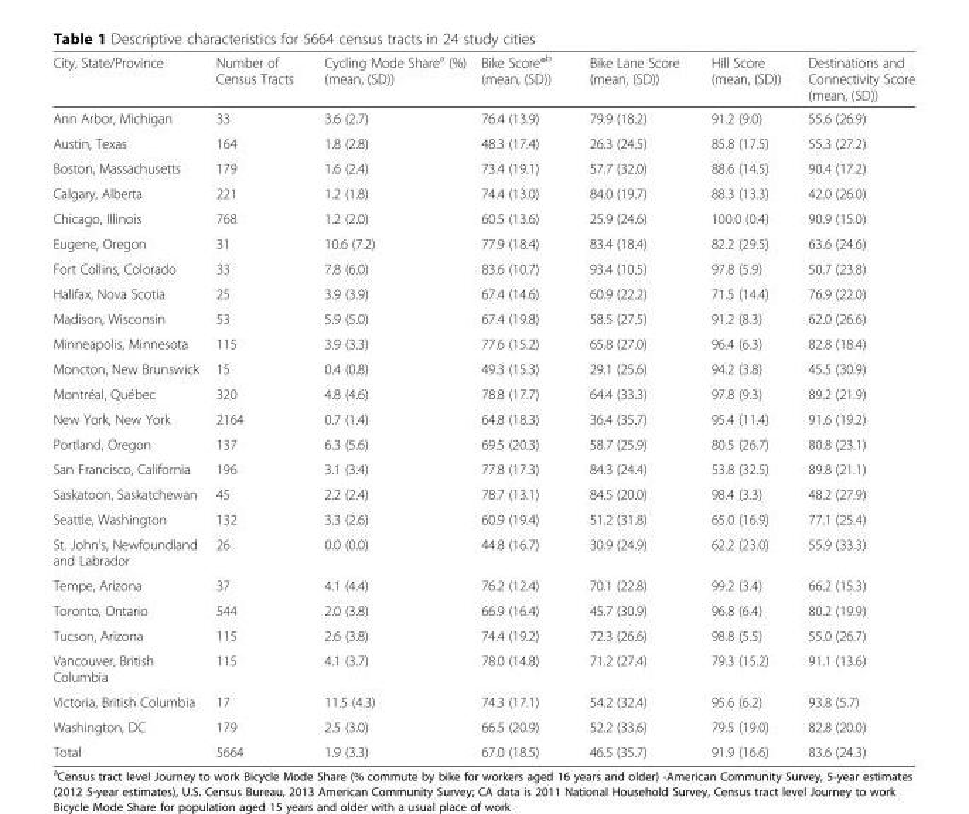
<table><thead><tr><td>City, State/Province</td><td>Number of Census Tracts</td><td>Cycling Mode Share<sup>a</sup> (%) (mean, (SD))</td><td>Bike Score®<sup>b</sup> (mean, (SD))</td><td>Bike Lane Score (mean, (SD))</td><td>Hill Score (mean, (SD))</td><td>Destinations and Connectivity Score (mean, (SD))</td></tr></thead><tbody><tr><td>Ann Arbor, Michigan</td><td>33</td><td>3.6 (2.7)</td><td>76.4 (13.9)</td><td>79.9 (18.2)</td><td>91.2 (9.0)</td><td>55.6 (26.9)</td></tr><tr><td>Austin, Texas</td><td>164</td><td>1.8 (2.8)</td><td>48.3 (17.4)</td><td>26.3 (24.5)</td><td>85.8 (17.5)</td><td>55.3 (27.2)</td></tr><tr><td>Boston, Massachusetts</td><td>179</td><td>1.6 (2.4)</td><td>73.4 (19.1)</td><td>57.7 (32.0)</td><td>88.6 (14.5)</td><td>90.4 (17.2)</td></tr><tr><td>Calgary, Alberta</td><td>221</td><td>1.2 (1.8)</td><td>74.4 (13.0)</td><td>84.0 (19.7)</td><td>88.3 (13.3)</td><td>42.0 (26.0)</td></tr><tr><td>Chicago, Illinois</td><td>768</td><td>1.2 (2.0)</td><td>60.5 (13.6)</td><td>25.9 (24.6)</td><td>100.0 (0.4)</td><td>90.9 (15.0)</td></tr><tr><td>Eugene, Oregon</td><td>31</td><td>10.6 (7.2)</td><td>77.9 (18.4)</td><td>83.4 (18.4)</td><td>82.2 (29.5)</td><td>63.6 (24.6)</td></tr><tr><td>Fort Collins, Colorado</td><td>33</td><td>7.8 (6.0)</td><td>83.6 (10.7)</td><td>93.4 (10.5)</td><td>97.8 (5.9)</td><td>50.7 (23.8)</td></tr><tr><td>Halifax, Nova Scotia</td><td>25</td><td>3.9 (3.9)</td><td>67.4 (14.6)</td><td>60.9 (22.2)</td><td>71.5 (14.4)</td><td>76.9 (22.0)</td></tr><tr><td>Madison, Wisconsin</td><td>53</td><td>5.9 (5.0)</td><td>67.4 (19.8)</td><td>58.5 (27.5)</td><td>91.2 (8.3)</td><td>62.0 (26.6)</td></tr><tr><td>Minneapolis, Minnesota</td><td>115</td><td>3.9 (3.3)</td><td>77.6 (15.2)</td><td>65.8 (27.0)</td><td>96.4 (6.3)</td><td>82.8 (18.4)</td></tr><tr><td>Moncton, New Brunswick</td><td>15</td><td>0.4 (0.8)</td><td>49.3 (15.3)</td><td>29.1 (25.6)</td><td>94.2 (3.8)</td><td>45.5 (30.9)</td></tr><tr><td>Montréal, Québec</td><td>320</td><td>4.8 (4.6)</td><td>78.8 (17.7)</td><td>64.4 (33.3)</td><td>97.8 (9.3)</td><td>89.2 (21.9)</td></tr><tr><td>New York, New York</td><td>2164</td><td>0.7 (1.4)</td><td>64.8 (18.3)</td><td>36.4 (35.7)</td><td>95.4 (11.4)</td><td>91.6 (19.2)</td></tr><tr><td>Portland, Oregon</td><td>137</td><td>6.3 (5.6)</td><td>69.5 (20.3)</td><td>58.7 (25.9)</td><td>80.5 (26.7)</td><td>80.8 (23.1)</td></tr><tr><td>San Francisco, California</td><td>196</td><td>3.1 (3.4)</td><td>77.8 (17.3)</td><td>84.3 (24.4)</td><td>53.8 (32.5)</td><td>89.8 (21.1)</td></tr><tr><td>Saskatoon, Saskatchewan</td><td>45</td><td>2.2 (2.4)</td><td>78.7 (13.1)</td><td>84.5 (20.0)</td><td>98.4 (3.3)</td><td>48.2 (27.9)</td></tr><tr><td>Seattle, Washington</td><td>132</td><td>3.3 (2.6)</td><td>60.9 (19.4)</td><td>51.2 (31.8)</td><td>65.0 (16.9)</td><td>77.1 (25.4)</td></tr><tr><td>St. John’s, Newfoundland and Labrador</td><td>26</td><td>0.0 (0.0)</td><td>44.8 (16.7)</td><td>30.9 (24.9)</td><td>62.2 (23.0)</td><td>55.9 (33.3)</td></tr><tr><td>Tempe, Arizona</td><td>37</td><td>4.1 (4.4)</td><td>76.2 (12.4)</td><td>70.1 (22.8)</td><td>99.2 (3.4)</td><td>66.2 (15.3)</td></tr><tr><td>Toronto, Ontario</td><td>544</td><td>2.0 (3.8)</td><td>66.9 (16.4)</td><td>45.7 (30.9)</td><td>96.8 (6.4)</td><td>80.2 (19.9)</td></tr><tr><td>Tucson, Arizona</td><td>115</td><td>2.6 (3.8)</td><td>74.4 (19.2)</td><td>72.3 (26.6)</td><td>98.8 (5.5)</td><td>55.0 (26.7)</td></tr><tr><td>Vancouver, British Columbia</td><td>115</td><td>4.1 (3.7)</td><td>78.0 (14.8)</td><td>71.2 (27.4)</td><td>79.3 (15.2)</td><td>91.1 (13.6)</td></tr><tr><td>Victoria, British Columbia</td><td>17</td><td>11.5 (4.3)</td><td>74.3 (17.1)</td><td>54.2 (32.4)</td><td>95.6 (6.2)</td><td>93.8 (5.7)</td></tr><tr><td>Washington, DC</td><td>179</td><td>2.5 (3.0)</td><td>66.5 (20.9)</td><td>52.2 (33.6)</td><td>79.5 (19.0)</td><td>82.8 (20.0)</td></tr><tr><td>Total</td><td>5664</td><td>1.9 (3.3)</td><td>67.0 (18.5)</td><td>46.5 (35.7)</td><td>91.9 (16.6)</td><td>83.6 (24.3)</td></tr></tbody></table>